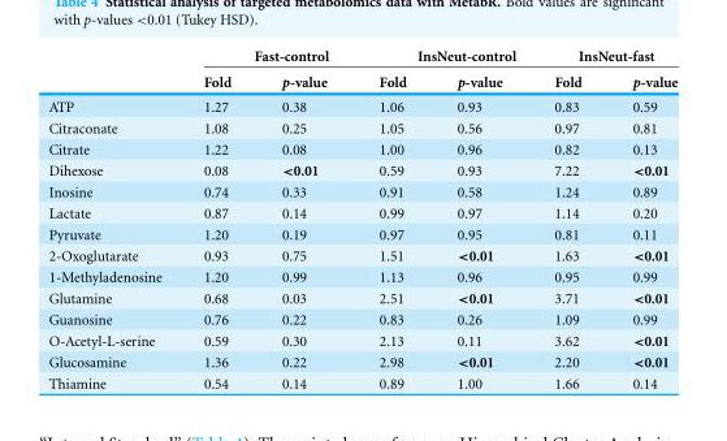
<table><thead><tr><td rowspan="2"></td><td colspan="2">Fast-control</td><td colspan="2">InsNeut-control</td><td colspan="2">InsNeut-fast</td></tr><tr><td>Fold</td><td>p-value</td><td>Fold</td><td>p-value</td><td>Fold</td><td>p-value</td></tr></thead><tbody><tr><td>ATP</td><td>1.27</td><td>0.38</td><td>1.06</td><td>0.93</td><td>0.83</td><td>0.59</td></tr><tr><td>Citraconate</td><td>1.08</td><td>0.25</td><td>1.05</td><td>0.56</td><td>0.97</td><td>0.81</td></tr><tr><td>Citrate</td><td>1.22</td><td>0.08</td><td>1.00</td><td>0.96</td><td>0.82</td><td>0.13</td></tr><tr><td>Dihexose</td><td>0.08</td><td>&lt;0.01</td><td>0.59</td><td>0.93</td><td>7.22</td><td>&lt;0.01</td></tr><tr><td>Inosine</td><td>0.74</td><td>0.33</td><td>0.91</td><td>0.58</td><td>1.24</td><td>0.89</td></tr><tr><td>Lactate</td><td>0.87</td><td>0.14</td><td>0.99</td><td>0.97</td><td>1.14</td><td>0.20</td></tr><tr><td>Pyruvate</td><td>1.20</td><td>0.19</td><td>0.97</td><td>0.95</td><td>0.81</td><td>0.11</td></tr><tr><td>2-Oxoglutarate</td><td>0.93</td><td>0.75</td><td>1.51</td><td>&lt;0.01</td><td>1.63</td><td>&lt;0.01</td></tr><tr><td>1-Methyladenosine</td><td>1.20</td><td>0.99</td><td>1.13</td><td>0.96</td><td>0.95</td><td>0.99</td></tr><tr><td>Glutamine</td><td>0.68</td><td>0.03</td><td>2.51</td><td>&lt;0.01</td><td>3.71</td><td>&lt;0.01</td></tr><tr><td>Guanosine</td><td>0.76</td><td>0.22</td><td>0.83</td><td>0.26</td><td>1.09</td><td>0.99</td></tr><tr><td>O-Acetyl-L-serine</td><td>0.59</td><td>0.30</td><td>2.13</td><td>0.11</td><td>3.62</td><td>&lt;0.01</td></tr><tr><td>Glucosamine</td><td>1.36</td><td>0.22</td><td>2.98</td><td>&lt;0.01</td><td>2.20</td><td>&lt;0.01</td></tr><tr><td>Thiamine</td><td>0.54</td><td>0.14</td><td>0.89</td><td>1.00</td><td>1.66</td><td>0.14</td></tr></tbody></table>